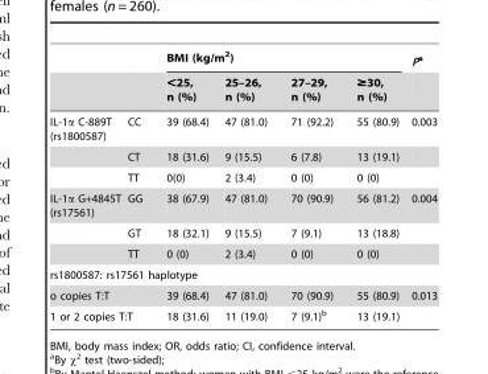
<table><thead><tr><td rowspan="2"></td><td rowspan="2"></td><td colspan="4">BMI (kg/m<sup>2</sup>)</td><td rowspan="2">Pa</td></tr><tr><td>&lt;25, n (%)</td><td>25–26, n (%)</td><td>27–29, n (%)</td><td>≥30, n (%)</td></tr></thead><tbody><tr><td rowspan="3">IL-1α C-889T (rs1800587)</td><td>CC</td><td>39 (68.4)</td><td>47 (81.0)</td><td>71 (92.2)</td><td>55 (80.9)</td><td>0.003</td></tr><tr><td>CT</td><td>18 (31.6)</td><td>9 (15.5)</td><td>6 (7.8)</td><td>13 (19.1)</td><td></td></tr><tr><td>TT</td><td>0(0)</td><td>2 (3.4)</td><td>0 (0)</td><td>0 (0)</td><td></td></tr><tr><td rowspan="3">IL-1α G+4845T (rs17561)</td><td>GG</td><td>38 (67.9)</td><td>47 (81.0)</td><td>70 (90.9)</td><td>56 (81.2)</td><td>0.004</td></tr><tr><td>GT</td><td>18 (32.1)</td><td>9 (15.5)</td><td>7 (9.1)</td><td>13 (18.8)</td><td></td></tr><tr><td>TT</td><td>0 (0)</td><td>2 (3.4)</td><td>0 (0)</td><td>0 (0)</td><td></td></tr><tr><td colspan="7">rs1800587: rs17561 haplotype</td></tr><tr><td colspan="2">o copies T:T</td><td>39 (68.4)</td><td>47 (81.0)</td><td>70 (90.9)</td><td>55 (80.9)</td><td>0.013</td></tr><tr><td colspan="2">1 or 2 copies T:T</td><td>18 (31.6)</td><td>11 (19.0)</td><td>7 (9.1)<sup>b</sup></td><td>13 (19.1)</td><td></td></tr></tbody></table>